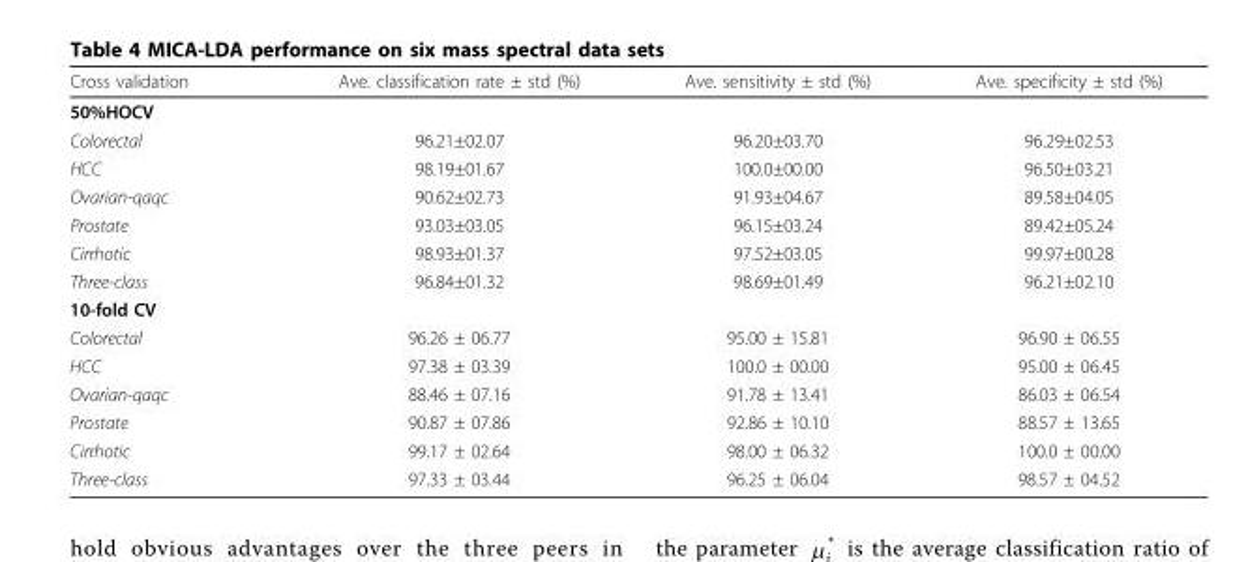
<table><thead><tr><td>Cross validation</td><td>Ave. classification rate ± std (%)</td><td>Ave. sensitivity ± std (%)</td><td>Ave. specificity ± std (%)</td></tr></thead><tbody><tr><td colspan="4">50%HOCV</td></tr><tr><td>Colorectal</td><td>96.21±02.07</td><td>96.20±03.70</td><td>96.29±02.53</td></tr><tr><td>HCC</td><td>98.19±01.67</td><td>100.0±00.00</td><td>96.50±03.21</td></tr><tr><td>Ovarian-qaqc</td><td>90.62±02.73</td><td>91.93±04.67</td><td>89.58±04.05</td></tr><tr><td>Prostate</td><td>93.03±03.05</td><td>96.15±03.24</td><td>89.42±05.24</td></tr><tr><td>Cirrhotic</td><td>98.93±01.37</td><td>97.52±03.05</td><td>99.97±00.28</td></tr><tr><td>Three-class</td><td>96.84±01.32</td><td>98.69±01.49</td><td>96.21±02.10</td></tr><tr><td colspan="4">10-fold CV</td></tr><tr><td>Colorectal</td><td>96.26 ± 06.77</td><td>95.00 ± 15.81</td><td>96.90 ± 06.55</td></tr><tr><td>HCC</td><td>97.38 ± 03.39</td><td>100.0 ± 00.00</td><td>95.00 ± 06.45</td></tr><tr><td>Ovarian-qaqc</td><td>88.46 ± 07.16</td><td>91.78 ± 13.41</td><td>86.03 ± 06.54</td></tr><tr><td>Prostate</td><td>90.87 ± 07.86</td><td>92.86 ± 10.10</td><td>88.57 ± 13.65</td></tr><tr><td>Cirrhotic</td><td>99.17 ± 02.64</td><td>98.00 ± 06.32</td><td>100.0 ± 00.00</td></tr><tr><td>Three-class</td><td>97.33 ± 03.44</td><td>96.25 ± 06.04</td><td>98.57 ± 04.52</td></tr></tbody></table>